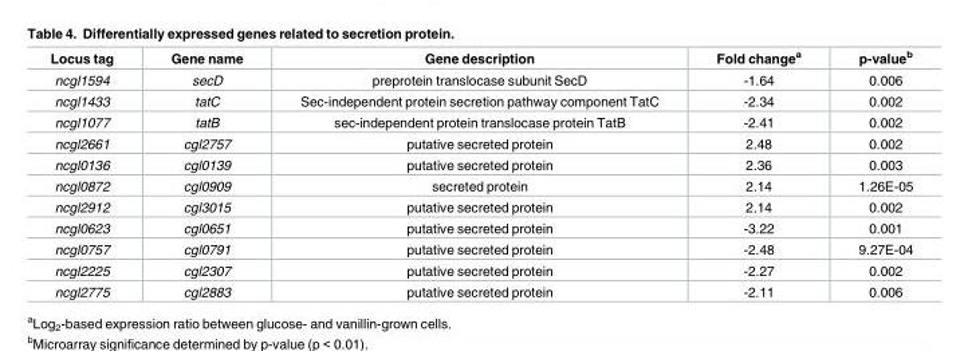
<table><thead><tr><td>Locus tag</td><td>Gene name</td><td>Gene description</td><td>Fold change<sup>a</sup></td><td>p-value<sup>b</sup></td></tr></thead><tbody><tr><td>ncgl1594</td><td>secD</td><td>preprotein translocase subunit SecD</td><td>-1.64</td><td>0.006</td></tr><tr><td>ncgl1433</td><td>tatC</td><td>Sec-independent protein secretion pathway component TatC</td><td>-2.34</td><td>0.002</td></tr><tr><td>ncgl1077</td><td>tatB</td><td>sec-independent protein translocase protein TatB</td><td>-2.41</td><td>0.002</td></tr><tr><td>ncgl2661</td><td>cgl2757</td><td>putative secreted protein</td><td>2.48</td><td>0.002</td></tr><tr><td>ncgl0136</td><td>cgl0139</td><td>putative secreted protein</td><td>2.36</td><td>0.003</td></tr><tr><td>ncgl0872</td><td>cgl0909</td><td>secreted protein</td><td>2.14</td><td>1.26E-05</td></tr><tr><td>ncgl2912</td><td>cgl3015</td><td>putative secreted protein</td><td>2.14</td><td>0.002</td></tr><tr><td>ncgl0623</td><td>cgl0651</td><td>putative secreted protein</td><td>-3.22</td><td>0.001</td></tr><tr><td>ncgl0757</td><td>cgl0791</td><td>putative secreted protein</td><td>-2.48</td><td>9.27E-04</td></tr><tr><td>ncgl2225</td><td>cgl2307</td><td>putative secreted protein</td><td>-2.27</td><td>0.002</td></tr><tr><td>ncgl2775</td><td>cgl2883</td><td>putative secreted protein</td><td>-2.11</td><td>0.006</td></tr></tbody></table>